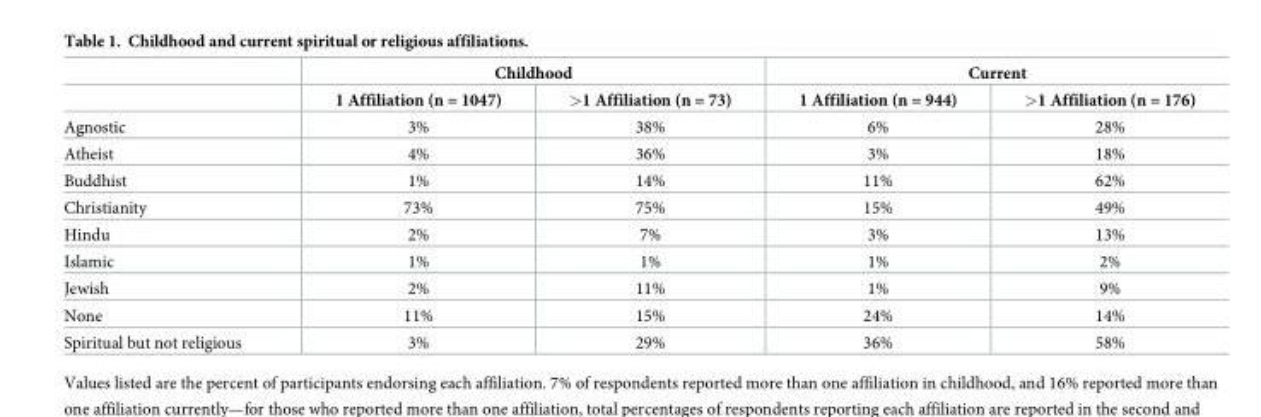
<table><thead><tr><td rowspan="2"></td><td colspan="2">Childhood</td><td colspan="2">Current</td></tr><tr><td>1 Affiliation (n = 1047)</td><td>&gt;1 Affiliation (n = 73)</td><td>1 Affiliation (n = 944)</td><td>&gt;1 Affiliation (n = 176)</td></tr></thead><tbody><tr><td>Agnostic</td><td>3%</td><td>38%</td><td>6%</td><td>28%</td></tr><tr><td>Atheist</td><td>4%</td><td>36%</td><td>3%</td><td>18%</td></tr><tr><td>Buddhist</td><td>1%</td><td>14%</td><td>11%</td><td>62%</td></tr><tr><td>Christianity</td><td>73%</td><td>75%</td><td>15%</td><td>49%</td></tr><tr><td>Hindu</td><td>2%</td><td>7%</td><td>3%</td><td>13%</td></tr><tr><td>Islamic</td><td>1%</td><td>1%</td><td>1%</td><td>2%</td></tr><tr><td>Jewish</td><td>2%</td><td>11%</td><td>1%</td><td>9%</td></tr><tr><td>None</td><td>11%</td><td>15%</td><td>24%</td><td>14%</td></tr><tr><td>Spiritual but not religious</td><td>3%</td><td>29%</td><td>36%</td><td>58%</td></tr></tbody></table>